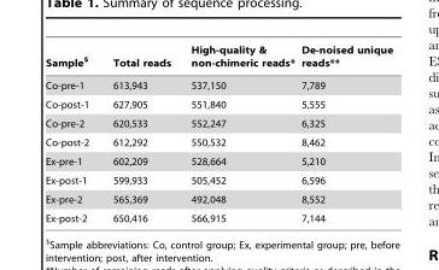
<table><thead><tr><td>Sample$</td><td>Total reads</td><td>High-quality &amp; non-chimeric reads*</td><td>De-noised unique reads**</td></tr></thead><tbody><tr><td>Co-pre-1</td><td>613,943</td><td>537,150</td><td>7,789</td></tr><tr><td>Co-post-1</td><td>627,905</td><td>551,840</td><td>5,555</td></tr><tr><td>Co-pre-2</td><td>620,533</td><td>552,247</td><td>6,325</td></tr><tr><td>Co-post-2</td><td>612,292</td><td>550,532</td><td>8,462</td></tr><tr><td>Ex-pre-1</td><td>602,209</td><td>528,664</td><td>5,210</td></tr><tr><td>Ex-post-1</td><td>599,933</td><td>505,452</td><td>6,596</td></tr><tr><td>Ex-pre-2</td><td>565,369</td><td>492,048</td><td>8,552</td></tr><tr><td>Ex-post-2</td><td>650,416</td><td>566,915</td><td>7,144</td></tr></tbody></table>